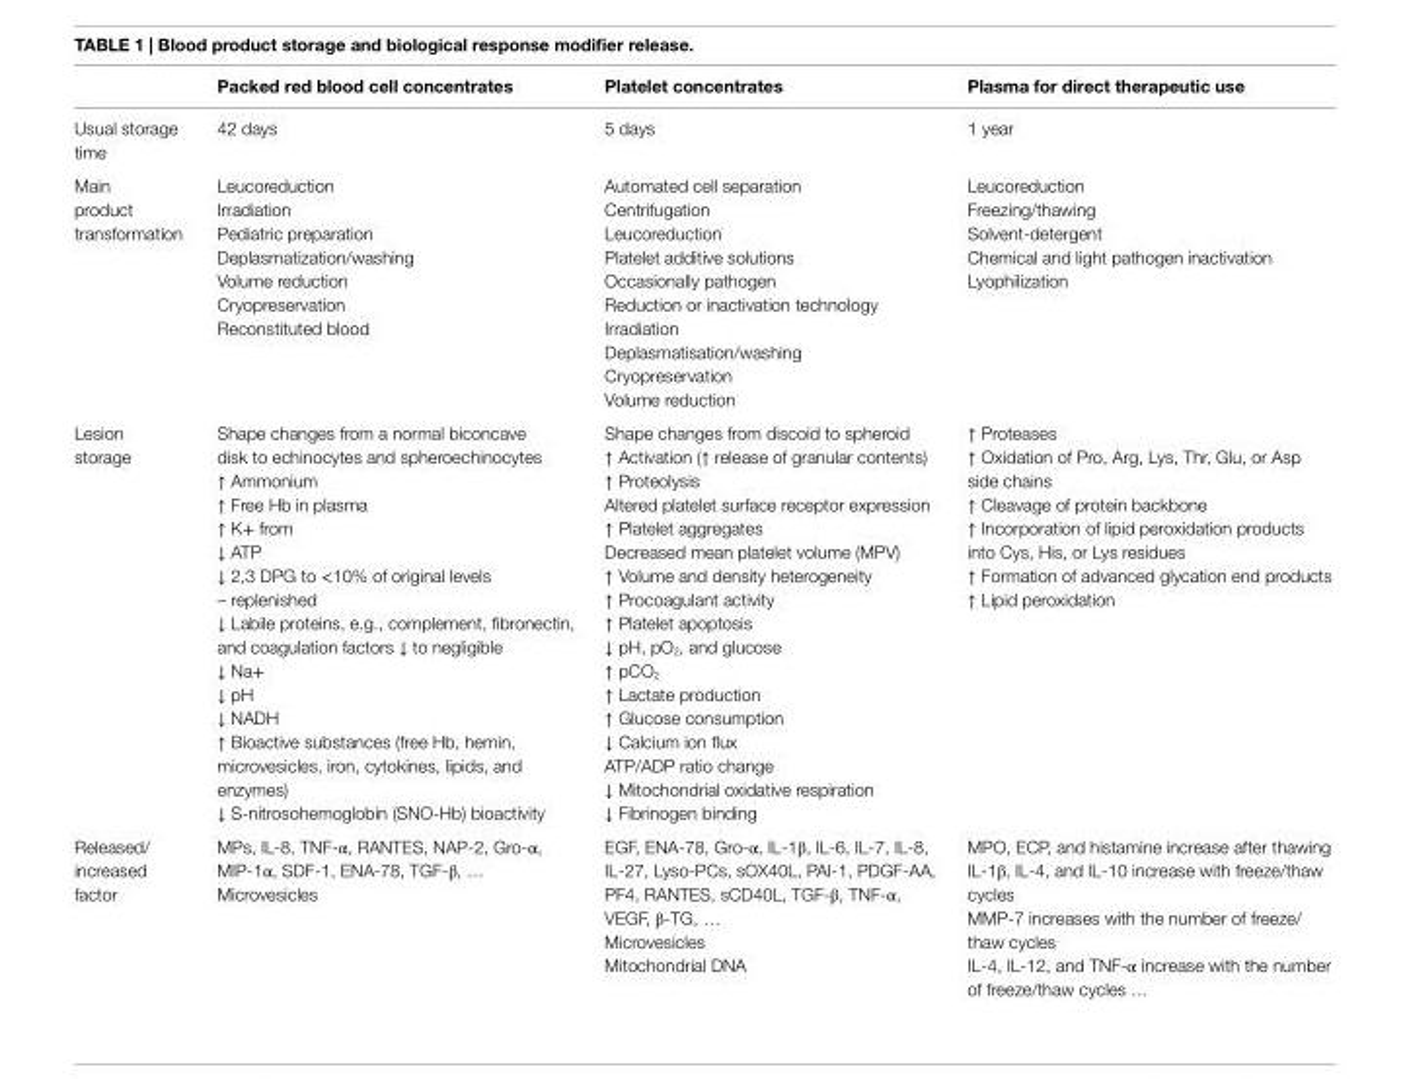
<table><thead><tr><td></td><td>Packed red blood cell concentrates</td><td>Platelet concentrates</td><td>Plasma for direct therapeutic use</td></tr></thead><tbody><tr><td>Usual storage time</td><td>42 days</td><td>5 days</td><td>1 year</td></tr><tr><td>Main product transformation</td><td>Leucoreduction Irradiation Pediatric preparation Deplasmatization/washing Volume reduction Cryopreservation Reconstituted blood</td><td>Automated cell separation Centrifugation Leucoreduction Platelet additive solutions Occasionally pathogen Reduction or inactivation technology Irradiation Deplasmatisation/washing Cryopreservation Volume reduction</td><td>Leucoreduction Freezing/thawing Solvent-detergent Chemical and light pathogen inactivation Lyophilization</td></tr><tr><td>Lesion storage</td><td>Shape changes from a normal biconcave disk to echinocytes and spheroechinocytes ↑ Ammonium ↑ Free Hb in plasma ↑ K+ from ↓ ATP ↓ 2,3 DPG to &lt;10% of original levels – replenished ↓ Labile proteins, e.g., complement, fibronectin, and coagulation factors ↓ to negligible ↓ Na+ ↓ pH ↓ NADH ↑ Bioactive substances (free Hb, hemin, microvesicles, iron, cytokines, lipids, and enzymes) ↓ S-nitrosohemoglobin (SNO-Hb) bioactivity</td><td>Shape changes from discoid to spheroid ↑ Activation (↑ release of granular contents) ↑ Proteolysis Altered platelet surface receptor expression ↑ Platelet aggregates Decreased mean platelet volume (MPV) ↑ Volume and density heterogeneity ↑ Procoagulant activity ↑ Platelet apoptosis ↓ pH, pO<sub>2</sub>, and glucose ↑ pCO<sub>2</sub> ↑ Lactate production ↑ Glucose consumption ↓ Calcium ion flux ATP/ADP ratio change ↓ Mitochondrial oxidative respiration ↓ Fibrinogen binding</td><td>↑ Proteases ↑ Oxidation of Pro, Arg, Lys, Thr, Glu, or Asp side chains ↑ Cleavage of protein backbone ↑ Incorporation of lipid peroxidation products into Cys, His, or Lys residues ↑ Formation of advanced glycation end products ↑ Lipid peroxidation</td></tr><tr><td>Released/ increased factor</td><td>MPs, IL-8, TNF-α, RANTES, NAP-2, Gro-α, MIP-1α, SDF-1, ENA-78, TGF-β, … Microvesicles</td><td>EGF, ENA-78, Gro-α, IL-1β, IL-6, IL-7, IL-8, IL-27, Lyso-PCs, sOX40L, PAI-1, PDGF-AA, PF4, RANTES, sCD40L, TGF-β, TNF-α, VEGF, β-TG, … Microvesicles Mitochondrial DNA</td><td>MPO, ECP, and histamine increase after thawing IL-1β, IL-4, and IL-10 increase with freeze/thaw cycles MMP-7 increases with the number of freeze/ thaw cycles IL-4, IL-12, and TNF-α increase with the number of freeze/thaw cycles …</td></tr></tbody></table>